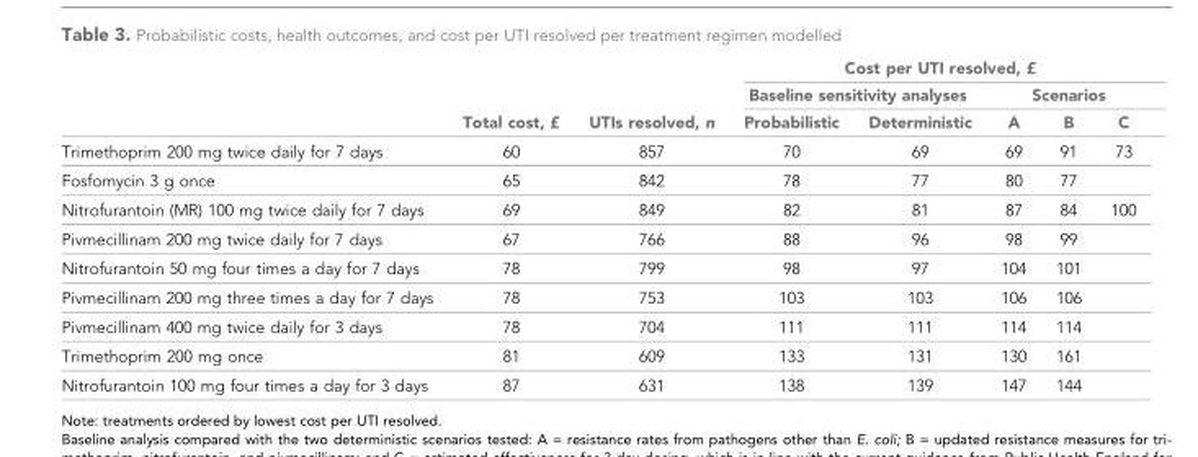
<table><thead><tr><td rowspan="3"></td><td rowspan="3">Total cost, £</td><td rowspan="3">UTIs resolved, n</td><td colspan="5">Cost per UTI resolved, £</td></tr><tr><td colspan="2">Baseline sensitivity analyses</td><td colspan="3">Scenarios</td></tr><tr><td>Probabilistic</td><td>Deterministic</td><td>A</td><td>B</td><td>C</td></tr></thead><tbody><tr><td>Trimethoprim 200 mg twice daily for 7 days</td><td>60</td><td>857</td><td>70</td><td>69</td><td>69</td><td>91</td><td>73</td></tr><tr><td>Fosfomycin 3 g once</td><td>65</td><td>842</td><td>78</td><td>77</td><td>80</td><td>77</td><td></td></tr><tr><td>Nitrofurantoin (MR) 100 mg twice daily for 7 days</td><td>69</td><td>849</td><td>82</td><td>81</td><td>87</td><td>84</td><td>100</td></tr><tr><td>Pivmecillinam 200 mg twice daily for 7 days</td><td>67</td><td>766</td><td>88</td><td>96</td><td>98</td><td>99</td><td></td></tr><tr><td>Nitrofurantoin 50 mg four times a day for 7 days</td><td>78</td><td>799</td><td>98</td><td>97</td><td>104</td><td>101</td><td></td></tr><tr><td>Pivmecillinam 200 mg three times a day for 7 days</td><td>78</td><td>753</td><td>103</td><td>103</td><td>106</td><td>106</td><td></td></tr><tr><td>Pivmecillinam 400 mg twice daily for 3 days</td><td>78</td><td>704</td><td>111</td><td>111</td><td>114</td><td>114</td><td></td></tr><tr><td>Trimethoprim 200 mg once</td><td>81</td><td>609</td><td>133</td><td>131</td><td>130</td><td>161</td><td></td></tr><tr><td>Nitrofurantoin 100 mg four times a day for 3 days</td><td>87</td><td>631</td><td>138</td><td>139</td><td>147</td><td>144</td><td></td></tr></tbody></table>